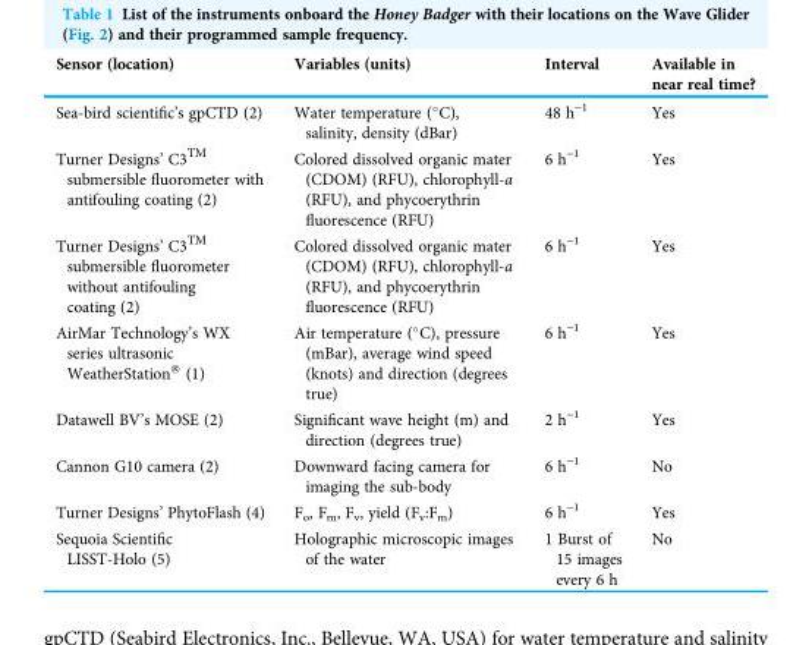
<table><thead><tr><td>Sensor (location)</td><td>Variables (units)</td><td>Interval</td><td>Available in near real time?</td></tr></thead><tbody><tr><td>Sea-bird scientific’s gpCTD (2)</td><td>Water temperature (°C), salinity, density (dBar)</td><td>48 h<sup>-1</sup></td><td>Yes</td></tr><tr><td>Turner Designs’ C3TM submersible fluorometer with antifouling coating (2)</td><td>Colored dissolved organic mater (CDOM) (RFU), chlorophyll-a (RFU), and phycoerythrin fluorescence (RFU)</td><td>6 h<sup>-1</sup></td><td>Yes</td></tr><tr><td>Turner Designs’ C3TM submersible fluorometer without antifouling coating (2)</td><td>Colored dissolved organic mater (CDOM) (RFU), chlorophyll-a (RFU), and phycoerythrin fluorescence (RFU)</td><td>6 h<sup>-1</sup></td><td>Yes</td></tr><tr><td>AirMar Technology’s WX series ultrasonic WeatherStation<sup>®</sup> (1)</td><td>Air temperature (°C), pressure (mBar), average wind speed (knots) and direction (degrees true)</td><td>6 h<sup>-1</sup></td><td>Yes</td></tr><tr><td>Datawell BV’s MOSE (2)</td><td>Significant wave height (m) and direction (degrees true)</td><td>2 h<sup>-1</sup></td><td>Yes</td></tr><tr><td>Cannon G10 camera (2)</td><td>Downward facing camera for imaging the sub-body</td><td>6 h<sup>-1</sup></td><td>No</td></tr><tr><td>Turner Designs’ PhytoFlash (4)</td><td>F<sub>o</sub>, F<sub>m</sub>, F<sub>v</sub>, yield (F<sub>v</sub>:F<sub>m</sub>)</td><td>6 h<sup>-1</sup></td><td>Yes</td></tr><tr><td>Sequoia Scientific LISST-Holo (5)</td><td>Holographic microscopic images of the water</td><td>1 Burst of 15 images every 6 h</td><td>No</td></tr></tbody></table>